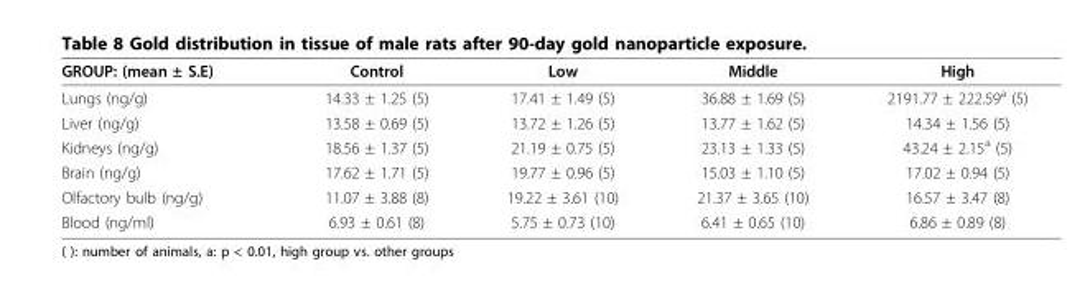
<table><thead><tr><td>GROUP: (mean ± S.E)</td><td>Control</td><td>Low</td><td>Middle</td><td>High</td></tr></thead><tbody><tr><td>Lungs (ng/g)</td><td>14.33 ± 1.25 (5)</td><td>17.41 ± 1.49 (5)</td><td>36.88 ± 1.69 (5)</td><td>2191.77 ± 222.59<sup>a</sup> (5)</td></tr><tr><td>Liver (ng/g)</td><td>13.58 ± 0.69 (5)</td><td>13.72 ± 1.26 (5)</td><td>13.77 ± 1.62 (5)</td><td>14.34 ± 1.56 (5)</td></tr><tr><td>Kidneys (ng/g)</td><td>18.56 ± 1.37 (5)</td><td>21.19 ± 0.75 (5)</td><td>23.13 ± 1.33 (5)</td><td>43.24 ± 2.15<sup>a</sup> (5)</td></tr><tr><td>Brain (ng/g)</td><td>17.62 ± 1.71 (5)</td><td>19.77 ± 0.96 (5)</td><td>15.03 ± 1.10 (5)</td><td>17.02 ± 0.94 (5)</td></tr><tr><td>Olfactory bulb (ng/g)</td><td>11.07 ± 3.88 (8)</td><td>19.22 ± 3.61 (10)</td><td>21.37 ± 3.65 (10)</td><td>16.57 ± 3.47 (8)</td></tr><tr><td>Blood (ng/ml)</td><td>6.93 ± 0.61 (8)</td><td>5.75 ± 0.73 (10)</td><td>6.41 ± 0.65 (10)</td><td>6.86 ± 0.89 (8)</td></tr></tbody></table>